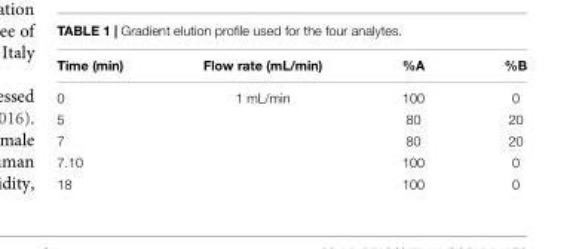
<table><thead><tr><td>Time (min)</td><td>Flow rate (mL/min)</td><td>%A</td><td>%B</td></tr></thead><tbody><tr><td>0</td><td>1 mL/min</td><td>100</td><td>0</td></tr><tr><td>5</td><td></td><td>80</td><td>20</td></tr><tr><td>7</td><td></td><td>80</td><td>20</td></tr><tr><td>7.10</td><td></td><td>100</td><td>0</td></tr><tr><td>18</td><td></td><td>100</td><td>0</td></tr></tbody></table>